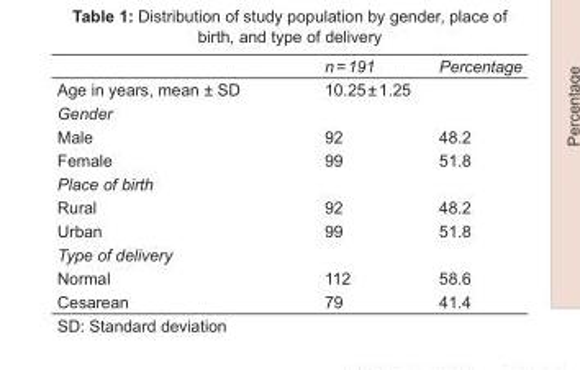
<table><thead><tr><td></td><td>n = 191</td><td>Percentage</td></tr></thead><tbody><tr><td>Age in years, mean ± SD</td><td>10.25 ± 1.25</td><td></td></tr><tr><td colspan="3">Gender</td></tr><tr><td>Male</td><td>92</td><td>48.2</td></tr><tr><td>Female</td><td>99</td><td>51.8</td></tr><tr><td colspan="3">Place of birth</td></tr><tr><td>Rural</td><td>92</td><td>48.2</td></tr><tr><td>Urban</td><td>99</td><td>51.8</td></tr><tr><td colspan="3">Type of delivery</td></tr><tr><td>Normal</td><td>112</td><td>58.6</td></tr><tr><td>Cesarean</td><td>79</td><td>41.4</td></tr></tbody></table>